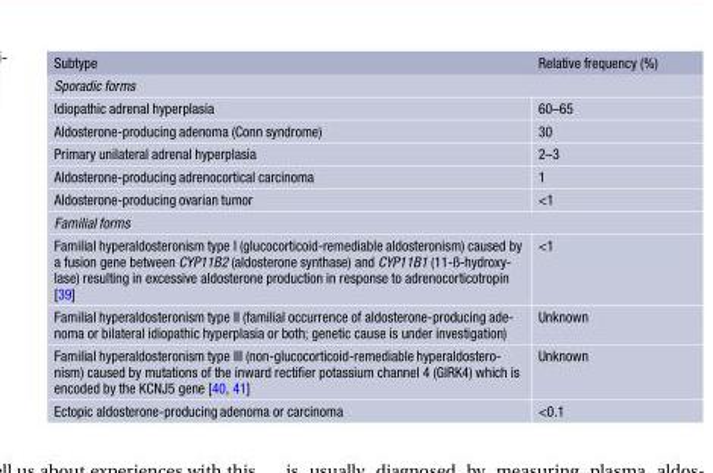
<table><thead><tr><td>Subtype</td><td>Relative frequency (%)</td></tr></thead><tbody><tr><td colspan="2">Sporadic forms</td></tr><tr><td>Idiopathic adrenal hyperplasia</td><td>60–65</td></tr><tr><td>Aldosterone-producing adenoma (Conn syndrome)</td><td>30</td></tr><tr><td>Primary unilateral adrenal hyperplasia</td><td>2–3</td></tr><tr><td>Aldosterone-producing adrenocortical carcinoma</td><td>1</td></tr><tr><td>Aldosterone-producing ovarian tumor</td><td>&lt;1</td></tr><tr><td colspan="2">Familial forms</td></tr><tr><td>Familial hyperaldosteronism type I (glucocorticoid-remediable aldosteronism) caused by a fusion gene between CYP11B2 (aldosterone synthase) and CYP11B1 (11-ß-hydroxy- lase) resulting in excessive aldosterone production in response to adrenocorticotropin [39]</td><td>&lt;1</td></tr><tr><td>Familial hyperaldosteronism type II (familial occurrence of aldosterone-producing ade- noma or bilateral idiopathic hyperplasia or both; genetic cause is under investigation)</td><td>Unknown</td></tr><tr><td>Familial hyperaldosteronism type III (non-glucocorticoid-remediable hyperaldostero- nism) caused by mutations of the inward rectifier potassium channel 4 (GIRK4) which is encoded by the KCNJ5 gene [40, 41]</td><td>Unknown</td></tr><tr><td>Ectopic aldosterone-producing adenoma or carcinoma</td><td>&lt;0.1</td></tr></tbody></table>